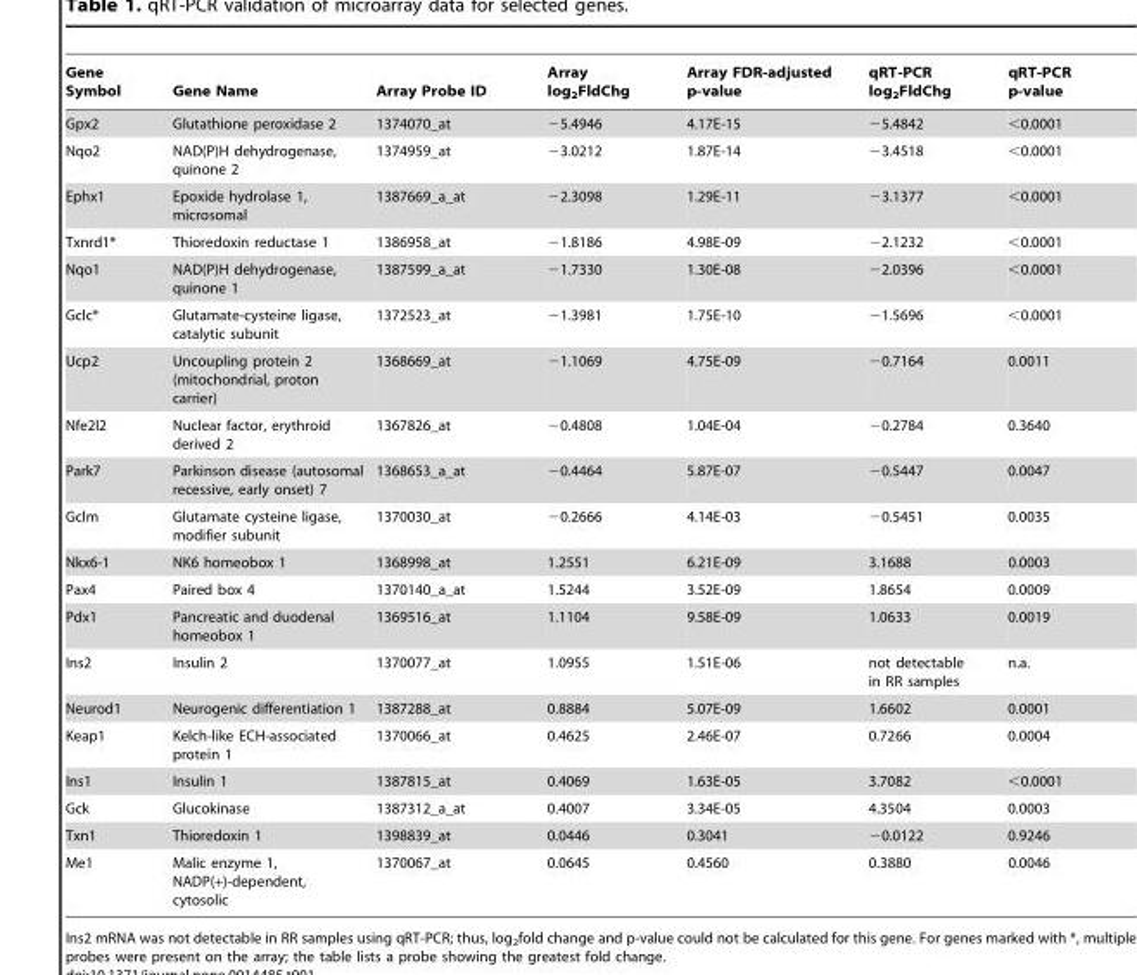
<table><thead><tr><td>Gene Symbol</td><td>Gene Name</td><td>Array Probe ID</td><td>Array log<sub>2</sub>FldChg</td><td>Array FDR-adjusted p-value</td><td>qRT-PCR log<sub>2</sub>FldChg</td><td>qRT-PCR p-value</td></tr></thead><tbody><tr><td>Gpx2</td><td>Glutathione peroxidase 2</td><td>1374070_at</td><td>−5.4946</td><td>4.17E-15</td><td>−5.4842</td><td>&lt;0.0001</td></tr><tr><td>Nqo2</td><td>NAD(P)H dehydrogenase, quinone 2</td><td>1374959_at</td><td>−3.0212</td><td>1.87E-14</td><td>−3.4518</td><td>&lt;0.0001</td></tr><tr><td>Ephx1</td><td>Epoxide hydrolase 1, microsomal</td><td>1387669_a_at</td><td>−2.3098</td><td>1.29E-11</td><td>−3.1377</td><td>&lt;0.0001</td></tr><tr><td>Txnrd1*</td><td>Thioredoxin reductase 1</td><td>1386958_at</td><td>−1.8186</td><td>4.98E-09</td><td>−2.1232</td><td>&lt;0.0001</td></tr><tr><td>Nqo1</td><td>NAD(P)H dehydrogenase, quinone 1</td><td>1387599_a_at</td><td>−1.7330</td><td>1.30E-08</td><td>−2.0396</td><td>&lt;0.0001</td></tr><tr><td>Gclc*</td><td>Glutamate-cysteine ligase, catalytic subunit</td><td>1372523_at</td><td>−1.3981</td><td>1.75E-10</td><td>−1.5696</td><td>&lt;0.0001</td></tr><tr><td>Ucp2</td><td>Uncoupling protein 2 (mitochondrial, proton carrier)</td><td>1368669_at</td><td>−1.1069</td><td>4.75E-09</td><td>−0.7164</td><td>0.0011</td></tr><tr><td>Nfe2l2</td><td>Nuclear factor, erythroid derived 2</td><td>1367826_at</td><td>−0.4808</td><td>1.04E-04</td><td>−0.2784</td><td>0.3640</td></tr><tr><td>Park7</td><td>Parkinson disease (autosomal recessive, early onset) 7</td><td>1368653_a_at</td><td>−0.4464</td><td>5.87E-07</td><td>−0.5447</td><td>0.0047</td></tr><tr><td>Gclm</td><td>Glutamate cysteine ligase, modifier subunit</td><td>1370030_at</td><td>−0.2666</td><td>4.14E-03</td><td>−0.5451</td><td>0.0035</td></tr><tr><td>Nkx6-1</td><td>NK6 homeobox 1</td><td>1368998_at</td><td>1.2551</td><td>6.21E-09</td><td>3.1688</td><td>0.0003</td></tr><tr><td>Pax4</td><td>Paired box 4</td><td>1370140_a_at</td><td>1.5244</td><td>3.52E-09</td><td>1.8654</td><td>0.0009</td></tr><tr><td>Pdx1</td><td>Pancreatic and duodenal homeobox 1</td><td>1369516_at</td><td>1.1104</td><td>9.58E-09</td><td>1.0633</td><td>0.0019</td></tr><tr><td>Ins2</td><td>Insulin 2</td><td>1370077_at</td><td>1.0955</td><td>1.51E-06</td><td>not detectable in RR samples</td><td>n.a.</td></tr><tr><td>Neurod1</td><td>Neurogenic differentiation 1</td><td>1387288_at</td><td>0.8884</td><td>5.07E-09</td><td>1.6602</td><td>0.0001</td></tr><tr><td>Keap1</td><td>Kelch-like ECH-associated protein 1</td><td>1370066_at</td><td>0.4625</td><td>2.46E-07</td><td>0.7266</td><td>0.0004</td></tr><tr><td>Ins1</td><td>Insulin 1</td><td>1387815_at</td><td>0.4069</td><td>1.63E-05</td><td>3.7082</td><td>&lt;0.0001</td></tr><tr><td>Gck</td><td>Glucokinase</td><td>1387312_a_at</td><td>0.4007</td><td>3.34E-05</td><td>4.3504</td><td>0.0003</td></tr><tr><td>Txn1</td><td>Thioredoxin 1</td><td>1398839_at</td><td>0.0446</td><td>0.3041</td><td>−0.0122</td><td>0.9246</td></tr><tr><td>Me1</td><td>Malic enzyme 1, NADP(+)-dependent, cytosolic</td><td>1370067_at</td><td>0.0645</td><td>0.4560</td><td>0.3880</td><td>0.0046</td></tr></tbody></table>